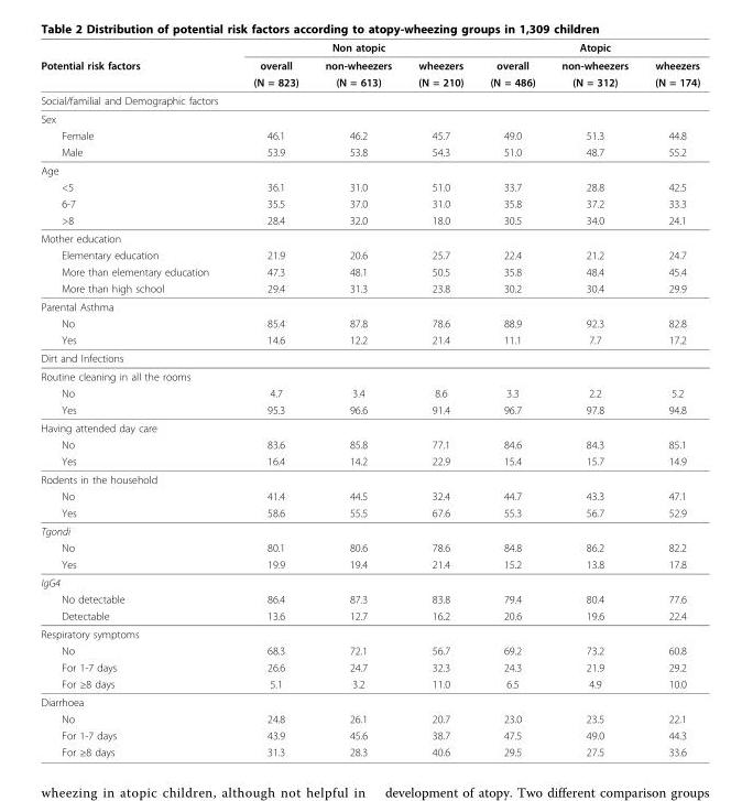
<table><thead><tr><td rowspan="3">Potential risk factors</td><td colspan="3">Non atopic</td><td colspan="3">Atopic</td></tr><tr><td rowspan="2">overall (N = 823)</td><td rowspan="2">non-wheezers (N = 613)</td><td rowspan="2">wheezers (N = 210)</td><td rowspan="2">overall (N = 486)</td><td rowspan="2">non-wheezers (N = 312)</td><td rowspan="2">wheezers (N = 174)</td></tr><tr></tr></thead><tbody><tr><td colspan="7">Social/familial and Demographic factors</td></tr><tr><td colspan="7">Sex</td></tr><tr><td>Female</td><td>46.1</td><td>46.2</td><td>45.7</td><td>49.0</td><td>51.3</td><td>44.8</td></tr><tr><td>Male</td><td>53.9</td><td>53.8</td><td>54.3</td><td>51.0</td><td>48.7</td><td>55.2</td></tr><tr><td colspan="7">Age</td></tr><tr><td>&lt;5</td><td>36.1</td><td>31.0</td><td>51.0</td><td>33.7</td><td>28.8</td><td>42.5</td></tr><tr><td>6-7</td><td>35.5</td><td>37.0</td><td>31.0</td><td>35.8</td><td>37.2</td><td>33.3</td></tr><tr><td>&gt;8</td><td>28.4</td><td>32.0</td><td>18.0</td><td>30.5</td><td>34.0</td><td>24.1</td></tr><tr><td colspan="7">Mother education</td></tr><tr><td>Elementary education</td><td>21.9</td><td>20.6</td><td>25.7</td><td>22.4</td><td>21.2</td><td>24.7</td></tr><tr><td>More than elementary education</td><td>47.3</td><td>48.1</td><td>50.5</td><td>35.8</td><td>48.4</td><td>45.4</td></tr><tr><td>More than high school</td><td>29.4</td><td>31.3</td><td>23.8</td><td>30.2</td><td>30.4</td><td>29.9</td></tr><tr><td colspan="7">Parental Asthma</td></tr><tr><td>No</td><td>85.4</td><td>87.8</td><td>78.6</td><td>88.9</td><td>92.3</td><td>82.8</td></tr><tr><td>Yes</td><td>14.6</td><td>12.2</td><td>21.4</td><td>11.1</td><td>7.7</td><td>17.2</td></tr><tr><td colspan="7">Dirt and Infections</td></tr><tr><td colspan="7">Routine cleaning in all the rooms</td></tr><tr><td>No</td><td>4.7</td><td>3.4</td><td>8.6</td><td>3.3</td><td>2.2</td><td>5.2</td></tr><tr><td>Yes</td><td>95.3</td><td>96.6</td><td>91.4</td><td>96.7</td><td>97.8</td><td>94.8</td></tr><tr><td colspan="7">Having attended day care</td></tr><tr><td>No</td><td>83.6</td><td>85.8</td><td>77.1</td><td>84.6</td><td>84.3</td><td>85.1</td></tr><tr><td>Yes</td><td>16.4</td><td>14.2</td><td>22.9</td><td>15.4</td><td>15.7</td><td>14.9</td></tr><tr><td colspan="7">Rodents in the household</td></tr><tr><td>No</td><td>41.4</td><td>44.5</td><td>32.4</td><td>44.7</td><td>43.3</td><td>47.1</td></tr><tr><td>Yes</td><td>58.6</td><td>55.5</td><td>67.6</td><td>55.3</td><td>56.7</td><td>52.9</td></tr><tr><td colspan="7">Tgondi</td></tr><tr><td>No</td><td>80.1</td><td>80.6</td><td>78.6</td><td>84.8</td><td>86.2</td><td>82.2</td></tr><tr><td>Yes</td><td>19.9</td><td>19.4</td><td>21.4</td><td>15.2</td><td>13.8</td><td>17.8</td></tr><tr><td colspan="7">IgG4</td></tr><tr><td>No detectable</td><td>86.4</td><td>87.3</td><td>83.8</td><td>79.4</td><td>80.4</td><td>77.6</td></tr><tr><td>Detectable</td><td>13.6</td><td>12.7</td><td>16.2</td><td>20.6</td><td>19.6</td><td>22.4</td></tr><tr><td colspan="7">Respiratory symptoms</td></tr><tr><td>No</td><td>68.3</td><td>72.1</td><td>56.7</td><td>69.2</td><td>73.2</td><td>60.8</td></tr><tr><td>For 1-7 days</td><td>26.6</td><td>24.7</td><td>32.3</td><td>24.3</td><td>21.9</td><td>29.2</td></tr><tr><td>For ≥8 days</td><td>5.1</td><td>3.2</td><td>11.0</td><td>6.5</td><td>4.9</td><td>10.0</td></tr><tr><td colspan="7">Diarrhoea</td></tr><tr><td>No</td><td>24.8</td><td>26.1</td><td>20.7</td><td>23.0</td><td>23.5</td><td>22.1</td></tr><tr><td>For 1-7 days</td><td>43.9</td><td>45.6</td><td>38.7</td><td>47.5</td><td>49.0</td><td>44.3</td></tr><tr><td>For ≥8 days</td><td>31.3</td><td>28.3</td><td>40.6</td><td>29.5</td><td>27.5</td><td>33.6</td></tr></tbody></table>